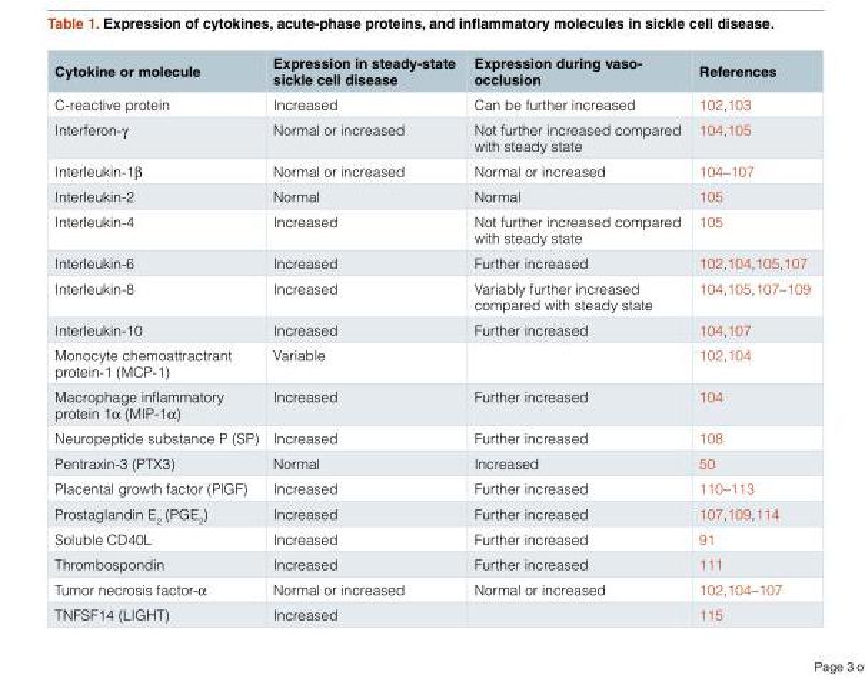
<table><thead><tr><td>Cytokine or molecule</td><td>Expression in steady-state sickle cell disease</td><td>Expression during vaso- occlusion</td><td>References</td></tr></thead><tbody><tr><td>C-reactive protein</td><td>Increased</td><td>Can be further increased</td><td>102,103</td></tr><tr><td>Interferon-γ</td><td>Normal or increased</td><td>Not further increased compared with steady state</td><td>104,105</td></tr><tr><td>Interleukin-1β</td><td>Normal or increased</td><td>Normal or increased</td><td>104–107</td></tr><tr><td>Interleukin-2</td><td>Normal</td><td>Normal</td><td>105</td></tr><tr><td>Interleukin-4</td><td>Increased</td><td>Not further increased compared with steady state</td><td>105</td></tr><tr><td>Interleukin-6</td><td>Increased</td><td>Further increased</td><td>102,104,105,107</td></tr><tr><td>Interleukin-8</td><td>Increased</td><td>Variably further increased compared with steady state</td><td>104,105,107–109</td></tr><tr><td>Interleukin-10</td><td>Increased</td><td>Further increased</td><td>104,107</td></tr><tr><td>Monocyte chemoattractrant protein-1 (MCP-1)</td><td>Variable</td><td></td><td>102,104</td></tr><tr><td>Macrophage inflammatory protein 1α (MIP-1α)</td><td>Increased</td><td>Further increased</td><td>104</td></tr><tr><td>Neuropeptide substance P (SP)</td><td>Increased</td><td>Further increased</td><td>108</td></tr><tr><td>Pentraxin-3 (PTX3)</td><td>Normal</td><td>Increased</td><td>50</td></tr><tr><td>Placental growth factor (PlGF)</td><td>Increased</td><td>Further increased</td><td>110–113</td></tr><tr><td>Prostaglandin E<sub>2</sub> (PGE<sub>2</sub>)</td><td>Increased</td><td>Further increased</td><td>107,109,114</td></tr><tr><td>Soluble CD40L</td><td>Increased</td><td>Further increased</td><td>91</td></tr><tr><td>Thrombospondin</td><td>Increased</td><td>Further increased</td><td>111</td></tr><tr><td>Tumor necrosis factor-α</td><td>Normal or increased</td><td>Normal or increased</td><td>102,104–107</td></tr><tr><td>TNFSF14 (LIGHT)</td><td>Increased</td><td></td><td>115</td></tr></tbody></table>